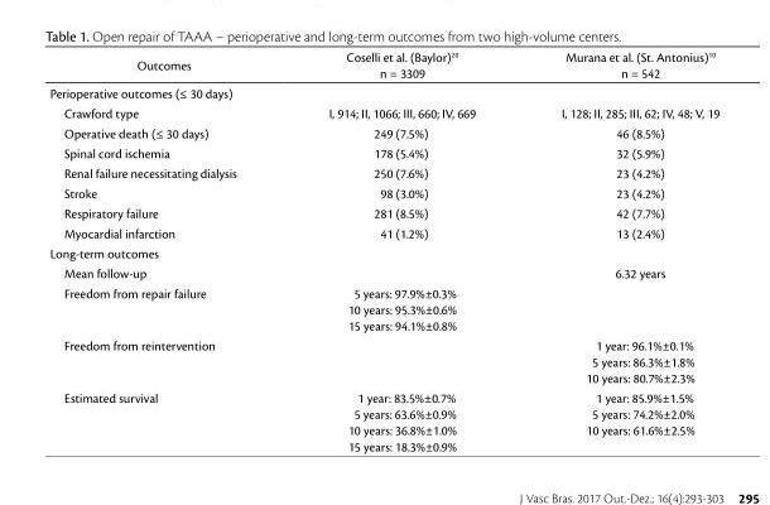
<table><thead><tr><td>Outcomes</td><td>Coselli et al. (Baylor)<sup>20</sup> n = 3309</td><td>Murana et al. (St. Antonius)<sup>10</sup> n = 542</td></tr></thead><tbody><tr><td colspan="3">Perioperative outcomes (≤ 30 days)</td></tr><tr><td>Crawford type</td><td>I, 914; II, 1066; III, 660; IV, 669</td><td>I, 128; II, 285; III, 62; IV, 48; V, 19</td></tr><tr><td>Operative death (≤ 30 days)</td><td>249 (7.5%)</td><td>46 (8.5%)</td></tr><tr><td>Spinal cord ischemia</td><td>178 (5.4%)</td><td>32 (5.9%)</td></tr><tr><td>Renal failure necessitating dialysis</td><td>250 (7.6%)</td><td>23 (4.2%)</td></tr><tr><td>Stroke</td><td>98 (3.0%)</td><td>23 (4.2%)</td></tr><tr><td>Respiratory failure</td><td>281 (8.5%)</td><td>42 (7.7%)</td></tr><tr><td>Myocardial infarction</td><td>41 (1.2%)</td><td>13 (2.4%)</td></tr><tr><td colspan="3">Long-term outcomes</td></tr><tr><td>Mean follow-up</td><td></td><td>6.32 years</td></tr><tr><td>Freedom from repair failure</td><td>5 years: 97.9%±0.3% 10 years: 95.3%±0.6% 15 years: 94.1%±0.8%</td><td></td></tr><tr><td>Freedom from reintervention</td><td></td><td>1 year: 96.1%±0.1% 5 years: 86.3%±1.8% 10 years: 80.7%±2.3%</td></tr><tr><td>Estimated survival</td><td>1 year: 83.5%±0.7% 5 years: 63.6%±0.9% 10 years: 36.8%±1.0% 15 years: 18.3%±0.9%</td><td>1 year: 85.9%±1.5% 5 years: 74.2%±2.0% 10 years: 61.6%±2.5%</td></tr></tbody></table>